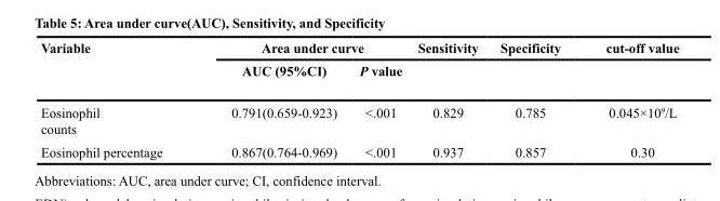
<table><thead><tr><td rowspan="2">Variable</td><td colspan="2">Area under curve</td><td rowspan="2">Sensitivity</td><td rowspan="2">Specificity</td><td rowspan="2">cut-off value</td></tr><tr><td>AUC (95%CI)</td><td>P value</td></tr></thead><tbody><tr><td>Eosinophil counts</td><td>0.791(0.659-0.923)</td><td>&lt;.001</td><td>0.829</td><td>0.785</td><td>0.045×10<sup>9</sup>/L</td></tr><tr><td>Eosinophil percentage</td><td>0.867(0.764-0.969)</td><td>&lt;.001</td><td>0.937</td><td>0.857</td><td>0.30</td></tr></tbody></table>